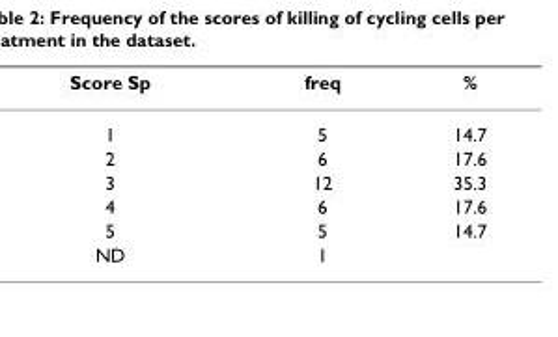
<table><thead><tr><td>Score Sp</td><td>freq</td><td>%</td></tr></thead><tbody><tr><td>1</td><td>5</td><td>14.7</td></tr><tr><td>2</td><td>6</td><td>17.6</td></tr><tr><td>3</td><td>12</td><td>35.3</td></tr><tr><td>4</td><td>6</td><td>17.6</td></tr><tr><td>5</td><td>5</td><td>14.7</td></tr><tr><td>ND</td><td>1</td><td></td></tr></tbody></table>